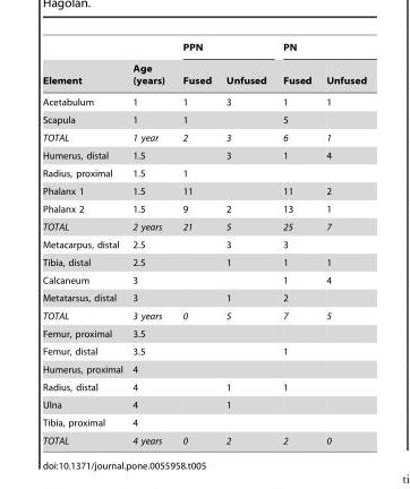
<table><thead><tr><td rowspan="2">Element</td><td rowspan="2">Age (years)</td><td colspan="2">PPN</td><td colspan="2">PN</td></tr><tr><td>Fused</td><td>Unfused</td><td>Fused</td><td>Unfused</td></tr></thead><tbody><tr><td>Acetabulum</td><td>1</td><td>1</td><td>3</td><td>1</td><td>1</td></tr><tr><td>Scapula</td><td>1</td><td>1</td><td></td><td>5</td><td></td></tr><tr><td>TOTAL</td><td>1 year</td><td>2</td><td>3</td><td>6</td><td>1</td></tr><tr><td>Humerus, distal</td><td>1.5</td><td></td><td>3</td><td>1</td><td>4</td></tr><tr><td>Radius, proximal</td><td>1.5</td><td>1</td><td></td><td></td><td></td></tr><tr><td>Phalanx 1</td><td>1.5</td><td>11</td><td></td><td>11</td><td>2</td></tr><tr><td>Phalanx 2</td><td>1.5</td><td>9</td><td>2</td><td>13</td><td>1</td></tr><tr><td>TOTAL</td><td>2 years</td><td>21</td><td>5</td><td>25</td><td>7</td></tr><tr><td>Metacarpus, distal</td><td>2.5</td><td></td><td>3</td><td>3</td><td></td></tr><tr><td>Tibia, distal</td><td>2.5</td><td></td><td>1</td><td>1</td><td>1</td></tr><tr><td>Calcaneum</td><td>3</td><td></td><td></td><td>1</td><td>4</td></tr><tr><td>Metatarsus, distal</td><td>3</td><td></td><td>1</td><td>2</td><td></td></tr><tr><td>TOTAL</td><td>3 years</td><td>0</td><td>5</td><td>7</td><td>5</td></tr><tr><td>Femur, proximal</td><td>3.5</td><td></td><td></td><td></td><td></td></tr><tr><td>Femur, distal</td><td>3.5</td><td></td><td></td><td>1</td><td></td></tr><tr><td>Humerus, proximal</td><td>4</td><td></td><td></td><td></td><td></td></tr><tr><td>Radius, distal</td><td>4</td><td></td><td>1</td><td>1</td><td></td></tr><tr><td>Ulna</td><td>4</td><td></td><td>1</td><td></td><td></td></tr><tr><td>Tibia, proximal</td><td>4</td><td></td><td></td><td></td><td></td></tr><tr><td>TOTAL</td><td>4 years</td><td>0</td><td>2</td><td>2</td><td>0</td></tr></tbody></table>